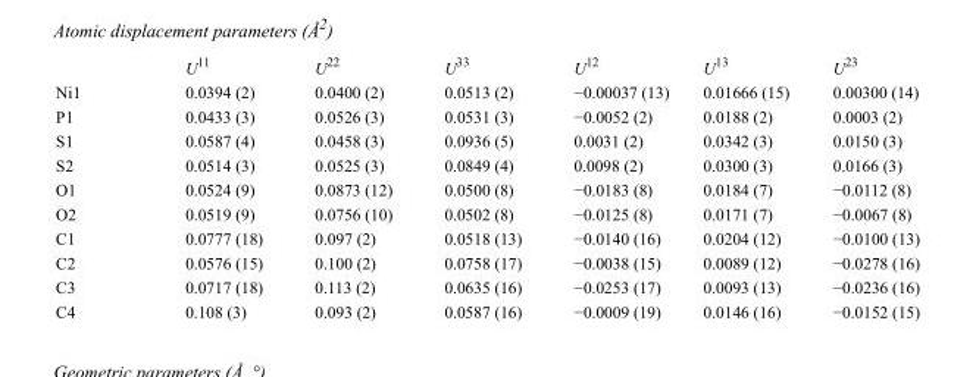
<table><thead><tr><td></td><td>U<sup>11</sup></td><td>U<sup>22</sup></td><td>U<sup>33</sup></td><td>U<sup>12</sup></td><td>U<sup>13</sup></td><td>U<sup>23</sup></td></tr></thead><tbody><tr><td>Ni1</td><td>0.0394 (2)</td><td>0.0400 (2)</td><td>0.0513 (2)</td><td>−0.00037 (13)</td><td>0.01666 (15)</td><td>0.00300 (14)</td></tr><tr><td>P1</td><td>0.0433 (3)</td><td>0.0526 (3)</td><td>0.0531 (3)</td><td>−0.0052 (2)</td><td>0.0188 (2)</td><td>0.0003 (2)</td></tr><tr><td>S1</td><td>0.0587 (4)</td><td>0.0458 (3)</td><td>0.0936 (5)</td><td>0.0031 (2)</td><td>0.0342 (3)</td><td>0.0150 (3)</td></tr><tr><td>S2</td><td>0.0514 (3)</td><td>0.0525 (3)</td><td>0.0849 (4)</td><td>0.0098 (2)</td><td>0.0300 (3)</td><td>0.0166 (3)</td></tr><tr><td>O1</td><td>0.0524 (9)</td><td>0.0873 (12)</td><td>0.0500 (8)</td><td>−0.0183 (8)</td><td>0.0184 (7)</td><td>−0.0112 (8)</td></tr><tr><td>O2</td><td>0.0519 (9)</td><td>0.0756 (10)</td><td>0.0502 (8)</td><td>−0.0125 (8)</td><td>0.0171 (7)</td><td>−0.0067 (8)</td></tr><tr><td>C1</td><td>0.0777 (18)</td><td>0.097 (2)</td><td>0.0518 (13)</td><td>−0.0140 (16)</td><td>0.0204 (12)</td><td>−0.0100 (13)</td></tr><tr><td>C2</td><td>0.0576 (15)</td><td>0.100 (2)</td><td>0.0758 (17)</td><td>−0.0038 (15)</td><td>0.0089 (12)</td><td>−0.0278 (16)</td></tr><tr><td>C3</td><td>0.0717 (18)</td><td>0.113 (2)</td><td>0.0635 (16)</td><td>−0.0253 (17)</td><td>0.0093 (13)</td><td>−0.0236 (16)</td></tr><tr><td>C4</td><td>0.108 (3)</td><td>0.093 (2)</td><td>0.0587 (16)</td><td>−0.0009 (19)</td><td>0.0146 (16)</td><td>−0.0152 (15)</td></tr></tbody></table>